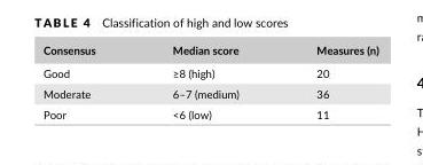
<table><thead><tr><td>Consensus</td><td>Median score</td><td>Measures (n)</td></tr></thead><tbody><tr><td>Good</td><td>≥8 (high)</td><td>20</td></tr><tr><td>Moderate</td><td>6–7 (medium)</td><td>36</td></tr><tr><td>Poor</td><td>&lt;6 (low)</td><td>11</td></tr></tbody></table>